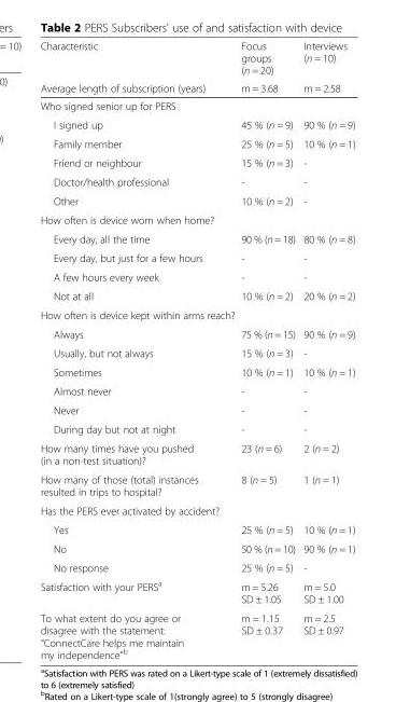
<table><thead><tr><td rowspan="2">Characteristic Average length of subscription (years)</td><td rowspan="2">Focus groups (n = 20) m = 3.68</td><td rowspan="2">Interviews (n = 10) m = 2.58</td></tr><tr></tr></thead><tbody><tr><td colspan="3">Who signed senior up for PERS</td></tr><tr><td>I signed up</td><td>45 % (n = 9)</td><td>90 % (n = 9)</td></tr><tr><td>Family member</td><td>25 % (n = 5)</td><td>10 % (n = 1)</td></tr><tr><td>Friend or neighbour</td><td>15 % (n = 3)</td><td>-</td></tr><tr><td>Doctor/health professional</td><td>-</td><td>-</td></tr><tr><td>Other</td><td>10 % (n = 2)</td><td>-</td></tr><tr><td colspan="3">How often is device worn when home?</td></tr><tr><td>Every day, all the time</td><td>90 % (n = 18)</td><td>80 % (n = 8)</td></tr><tr><td>Every day, but just for a few hours</td><td>-</td><td>-</td></tr><tr><td>A few hours every week</td><td>-</td><td>-</td></tr><tr><td>Not at all</td><td>10 % (n = 2)</td><td>20 % (n = 2)</td></tr><tr><td colspan="3">How often is device kept within arms reach?</td></tr><tr><td>Always</td><td>75 % (n = 15)</td><td>90 % (n = 9)</td></tr><tr><td>Usually, but not always</td><td>15 % (n = 3)</td><td>-</td></tr><tr><td>Sometimes</td><td>10 % (n = 1)</td><td>10 % (n = 1)</td></tr><tr><td>Almost never</td><td>-</td><td>-</td></tr><tr><td>Never</td><td>-</td><td>-</td></tr><tr><td>During day but not at night</td><td>-</td><td>-</td></tr><tr><td>How many times have you pushed (in a non-test situation)?</td><td>23 (n = 6)</td><td>2 (n = 2)</td></tr><tr><td>How many of those (total) instances resulted in trips to hospital?</td><td>8 (n = 5)</td><td>1 (n = 1)</td></tr><tr><td colspan="3">Has the PERS ever activated by accident?</td></tr><tr><td>Yes</td><td>25 % (n = 5)</td><td>10 % (n = 1)</td></tr><tr><td>No</td><td>50 % (n = 10)</td><td>90 % (n = 1)</td></tr><tr><td>No response</td><td>25 % (n = 5)</td><td>-</td></tr><tr><td>Satisfaction with your PERS<sup>a</sup></td><td>m = 5.26 SD ± 1.05</td><td>m = 5.0 SD ± 1.00</td></tr><tr><td>To what extent do you agree or disagree with the statement: “ConnectCare helps me maintain my independence”<sup>b</sup></td><td>m = 1.15 SD ± 0.37</td><td>m = 2.5 SD ± 0.97</td></tr></tbody></table>